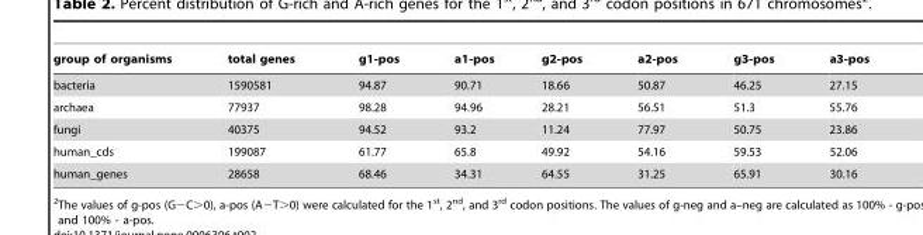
<table><thead><tr><td>group of organisms</td><td>total genes</td><td>g1-pos</td><td>a1-pos</td><td>g2-pos</td><td>a2-pos</td><td>g3-pos</td><td>a3-pos</td></tr></thead><tbody><tr><td>bacteria</td><td>1590581</td><td>94.87</td><td>90.71</td><td>18.66</td><td>50.87</td><td>46.25</td><td>27.15</td></tr><tr><td>archaea</td><td>77937</td><td>98.28</td><td>94.96</td><td>28.21</td><td>56.51</td><td>51.3</td><td>55.76</td></tr><tr><td>fungi</td><td>40375</td><td>94.52</td><td>93.2</td><td>11.24</td><td>77.97</td><td>50.75</td><td>23.86</td></tr><tr><td>human_cds</td><td>199087</td><td>61.77</td><td>65.8</td><td>49.92</td><td>54.16</td><td>59.53</td><td>52.06</td></tr><tr><td>human_genes</td><td>28658</td><td>68.46</td><td>34.31</td><td>64.55</td><td>31.25</td><td>65.91</td><td>30.16</td></tr></tbody></table>